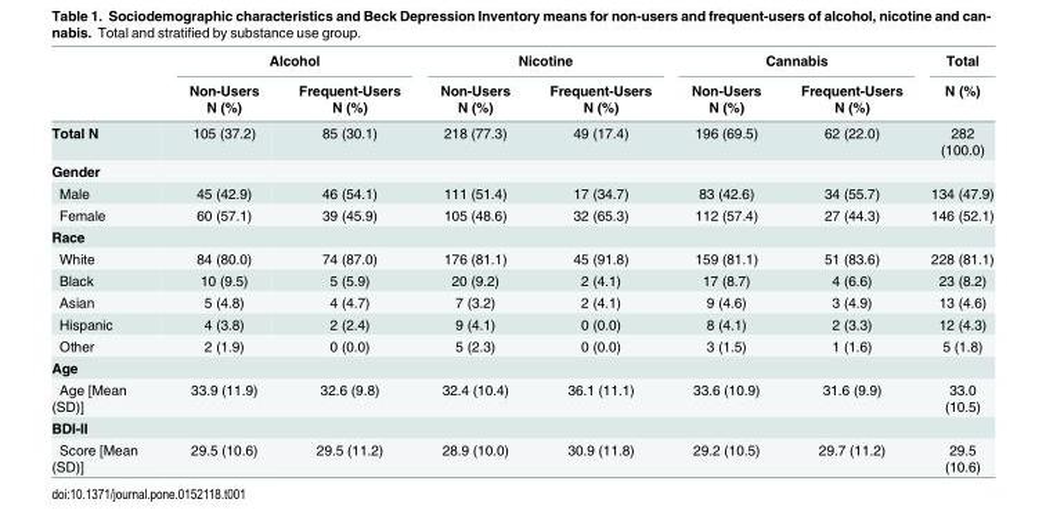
<table><thead><tr><td rowspan="2"></td><td colspan="2">Alcohol</td><td colspan="2">Nicotine</td><td colspan="2">Cannabis</td><td rowspan="2">Total N (%)</td></tr><tr><td>Non-Users N (%)</td><td>Frequent-Users N (%)</td><td>Non-Users N (%)</td><td>Frequent-Users N (%)</td><td>Non-Users N (%)</td><td>Frequent-Users N (%)</td></tr></thead><tbody><tr><td>Total N</td><td>105 (37.2)</td><td>85 (30.1)</td><td>218 (77.3)</td><td>49 (17.4)</td><td>196 (69.5)</td><td>62 (22.0)</td><td>282 (100.0)</td></tr><tr><td colspan="8">Gender</td></tr><tr><td>Male</td><td>45 (42.9)</td><td>46 (54.1)</td><td>111 (51.4)</td><td>17 (34.7)</td><td>83 (42.6)</td><td>34 (55.7)</td><td>134 (47.9)</td></tr><tr><td>Female</td><td>60 (57.1)</td><td>39 (45.9)</td><td>105 (48.6)</td><td>32 (65.3)</td><td>112 (57.4)</td><td>27 (44.3)</td><td>146 (52.1)</td></tr><tr><td colspan="8">Race</td></tr><tr><td>White</td><td>84 (80.0)</td><td>74 (87.0)</td><td>176 (81.1)</td><td>45 (91.8)</td><td>159 (81.1)</td><td>51 (83.6)</td><td>228 (81.1)</td></tr><tr><td>Black</td><td>10 (9.5)</td><td>5 (5.9)</td><td>20 (9.2)</td><td>2 (4.1)</td><td>17 (8.7)</td><td>4 (6.6)</td><td>23 (8.2)</td></tr><tr><td>Asian</td><td>5 (4.8)</td><td>4 (4.7)</td><td>7 (3.2)</td><td>2 (4.1)</td><td>9 (4.6)</td><td>3 (4.9)</td><td>13 (4.6)</td></tr><tr><td>Hispanic</td><td>4 (3.8)</td><td>2 (2.4)</td><td>9 (4.1)</td><td>0 (0.0)</td><td>8 (4.1)</td><td>2 (3.3)</td><td>12 (4.3)</td></tr><tr><td>Other</td><td>2 (1.9)</td><td>0 (0.0)</td><td>5 (2.3)</td><td>0 (0.0)</td><td>3 (1.5)</td><td>1 (1.6)</td><td>5 (1.8)</td></tr><tr><td colspan="8">Age</td></tr><tr><td>Age [Mean (SD)]</td><td>33.9 (11.9)</td><td>32.6 (9.8)</td><td>32.4 (10.4)</td><td>36.1 (11.1)</td><td>33.6 (10.9)</td><td>31.6 (9.9)</td><td>33.0 (10.5)</td></tr><tr><td colspan="8">BDI-II</td></tr><tr><td>Score [Mean (SD)]</td><td>29.5 (10.6)</td><td>29.5 (11.2)</td><td>28.9 (10.0)</td><td>30.9 (11.8)</td><td>29.2 (10.5)</td><td>29.7 (11.2)</td><td>29.5 (10.6)</td></tr></tbody></table>